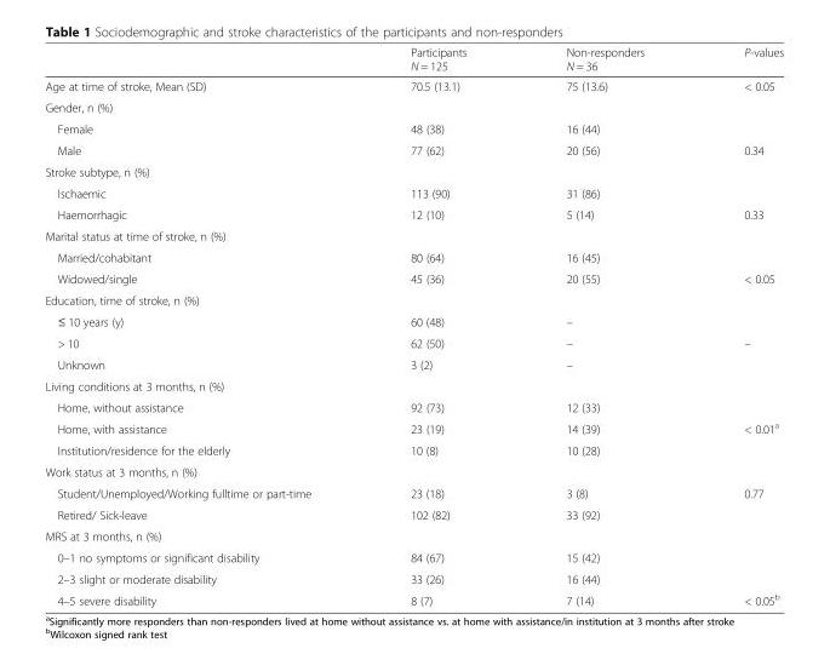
<table><thead><tr><td></td><td>Participants N = 125</td><td>Non-responders N = 36</td><td>P-values</td></tr></thead><tbody><tr><td>Age at time of stroke, Mean (SD)</td><td>70.5 (13.1)</td><td>75 (13.6)</td><td>&lt; 0.05</td></tr><tr><td colspan="4">Gender, n (%)</td></tr><tr><td>Female</td><td>48 (38)</td><td>16 (44)</td><td></td></tr><tr><td>Male</td><td>77 (62)</td><td>20 (56)</td><td>0.34</td></tr><tr><td colspan="4">Stroke subtype, n (%)</td></tr><tr><td>Ischaemic</td><td>113 (90)</td><td>31 (86)</td><td></td></tr><tr><td>Haemorrhagic</td><td>12 (10)</td><td>5 (14)</td><td>0.33</td></tr><tr><td colspan="4">Marital status at time of stroke, n (%)</td></tr><tr><td>Married/cohabitant</td><td>80 (64)</td><td>16 (45)</td><td></td></tr><tr><td>Widowed/single</td><td>45 (36)</td><td>20 (55)</td><td>&lt; 0.05</td></tr><tr><td colspan="4">Education, time of stroke, n (%)</td></tr><tr><td>≤ 10 years (y)</td><td>60 (48)</td><td>–</td><td></td></tr><tr><td>&gt; 10</td><td>62 (50)</td><td>–</td><td>–</td></tr><tr><td>Unknown</td><td>3 (2)</td><td>–</td><td></td></tr><tr><td colspan="4">Living conditions at 3 months, n (%)</td></tr><tr><td>Home, without assistance</td><td>92 (73)</td><td>12 (33)</td><td></td></tr><tr><td>Home, with assistance</td><td>23 (19)</td><td>14 (39)</td><td>&lt; 0.01<sup>a</sup></td></tr><tr><td>Institution/residence for the elderly</td><td>10 (8)</td><td>10 (28)</td><td></td></tr><tr><td colspan="4">Work status at 3 months, n (%)</td></tr><tr><td>Student/Unemployed/Working fulltime or part-time</td><td>23 (18)</td><td>3 (8)</td><td>0.77</td></tr><tr><td>Retired/ Sick-leave</td><td>102 (82)</td><td>33 (92)</td><td></td></tr><tr><td colspan="4">MRS at 3 months, n (%)</td></tr><tr><td>0–1 no symptoms or significant disability</td><td>84 (67)</td><td>15 (42)</td><td></td></tr><tr><td>2–3 slight or moderate disability</td><td>33 (26)</td><td>16 (44)</td><td></td></tr><tr><td>4–5 severe disability</td><td>8 (7)</td><td>7 (14)</td><td>&lt; 0.05<sup>b</sup></td></tr></tbody></table>